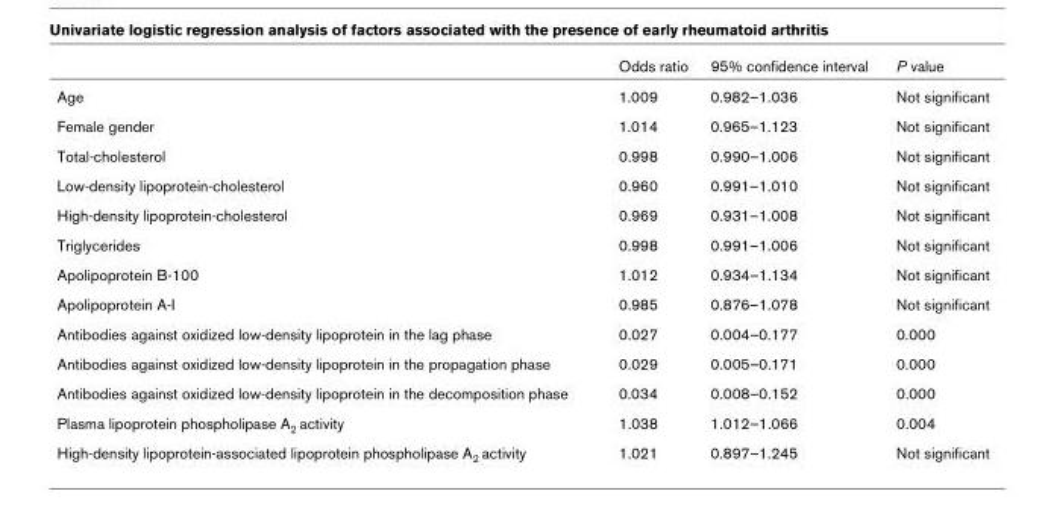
<table><thead><tr><td></td><td>Odds ratio</td><td>95% confidence interval</td><td>P value</td></tr></thead><tbody><tr><td>Age</td><td>1.009</td><td>0.982–1.036</td><td>Not significant</td></tr><tr><td>Female gender</td><td>1.014</td><td>0.965–1.123</td><td>Not significant</td></tr><tr><td>Total-cholesterol</td><td>0.998</td><td>0.990–1.006</td><td>Not significant</td></tr><tr><td>Low-density lipoprotein-cholesterol</td><td>0.960</td><td>0.991–1.010</td><td>Not significant</td></tr><tr><td>High-density lipoprotein-cholesterol</td><td>0.969</td><td>0.931–1.008</td><td>Not significant</td></tr><tr><td>Triglycerides</td><td>0.998</td><td>0.991–1.006</td><td>Not significant</td></tr><tr><td>Apolipoprotein B-100</td><td>1.012</td><td>0.934–1.134</td><td>Not significant</td></tr><tr><td>Apolipoprotein A-I</td><td>0.985</td><td>0.876–1.078</td><td>Not significant</td></tr><tr><td>Antibodies against oxidized low-density lipoprotein in the lag phase</td><td>0.027</td><td>0.004–0.177</td><td>0.000</td></tr><tr><td>Antibodies against oxidized low-density lipoprotein in the propagation phase</td><td>0.029</td><td>0.005–0.171</td><td>0.000</td></tr><tr><td>Antibodies against oxidized low-density lipoprotein in the decomposition phase</td><td>0.034</td><td>0.008–0.152</td><td>0.000</td></tr><tr><td>Plasma lipoprotein phospholipase A2 activity</td><td>1.038</td><td>1.012–1.066</td><td>0.004</td></tr><tr><td>High-density lipoprotein-associated lipoprotein phospholipase A2 activity</td><td>1.021</td><td>0.897–1.245</td><td>Not significant</td></tr></tbody></table>